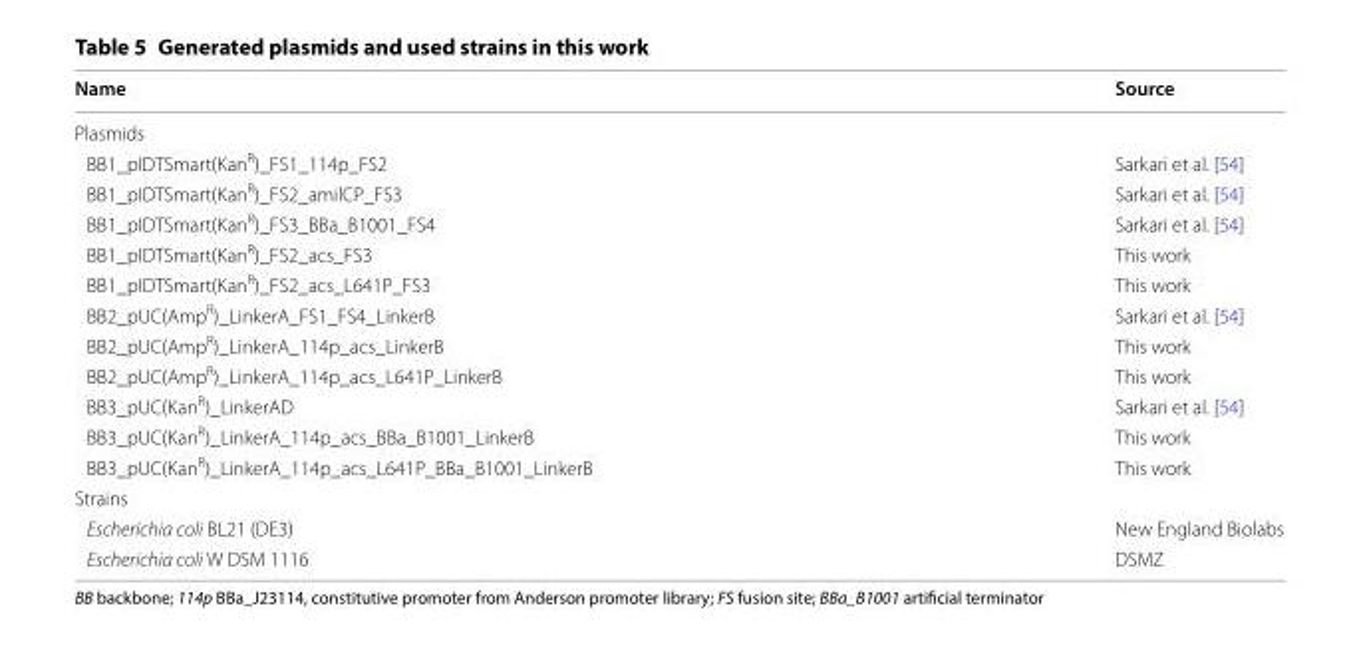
<table><thead><tr><td>Name</td><td>Source</td></tr></thead><tbody><tr><td colspan="2">Plasmids</td></tr><tr><td>BB1_pIDTSmart(Kan<sup>R</sup>)_FS1_114p_FS2</td><td>Sarkari et al. [54]</td></tr><tr><td>BB1_pIDTSmart(Kan<sup>R</sup>)_FS2_amilCP_FS3</td><td>Sarkari et al. [54]</td></tr><tr><td>BB1_pIDTSmart(Kan<sup>R</sup>)_FS3_BBa_B1001_FS4</td><td>Sarkari et al. [54]</td></tr><tr><td>BB1_pIDTSmart(Kan<sup>R</sup>)_FS2_acs_FS3</td><td>This work</td></tr><tr><td>BB1_pIDTSmart(Kan<sup>R</sup>)_FS2_acs_L641P_FS3</td><td>This work</td></tr><tr><td>BB2_pUC(Amp<sup>R</sup>)_LinkerA_FS1_FS4_LinkerB</td><td>Sarkari et al. [54]</td></tr><tr><td>BB2_pUC(Amp<sup>R</sup>)_LinkerA_114p_acs_LinkerB</td><td>This work</td></tr><tr><td>BB2_pUC(Amp<sup>R</sup>)_LinkerA_114p_acs_L641P_LinkerB</td><td>This work</td></tr><tr><td>BB3_pUC(Kan<sup>R</sup>)_LinkerAD</td><td>Sarkari et al. [54]</td></tr><tr><td>BB3_pUC(Kan<sup>R</sup>)_LinkerA_114p_acs_BBa_B1001_LinkerB</td><td>This work</td></tr><tr><td>BB3_pUC(Kan<sup>R</sup>)_LinkerA_114p_acs_L641P_BBa_B1001_LinkerB</td><td>This work</td></tr><tr><td colspan="2">Strains</td></tr><tr><td>Escherichia coli BL21 (DE3)</td><td>New England Biolabs</td></tr><tr><td>Escherichia coli W DSM 1116</td><td>DSMZ</td></tr></tbody></table>